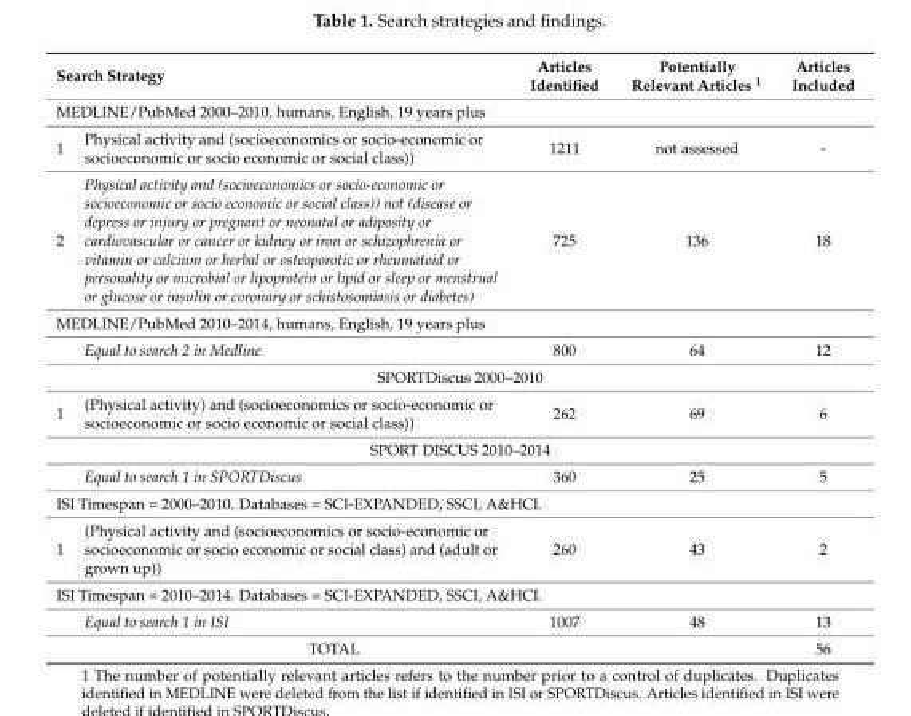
<table><thead><tr><td colspan="2">Search Strategy</td><td>Articles Identified</td><td>Potentially Relevant Articles <sup>1</sup></td><td>Articles Included</td></tr><tr><td colspan="5">MEDLINE/PubMed 2000–2010, humans, English, 19 years plus</td></tr><tr><td>1</td><td>Physical activity and (socioeconomics or socio-economic or socioeconomic or socio economic or social class))</td><td>1211</td><td>not assessed</td><td>-</td></tr></thead><tbody><tr><td>2</td><td>Physical activity and (socioeconomics or socio-economic or socioeconomic or socio economic or social class)) not (disease or depress or injury or pregnant or neonatal or adiposity or cardiovascular or cancer or kidney or iron or schizophrenia or vitamin or calcium or herbal or osteoporotic or rheumatoid or personality or microbial or lipoprotein or lipid or sleep or menstrual or glucose or insulin or coronary or schistosomiasis or diabetes)</td><td>725</td><td>136</td><td>18</td></tr><tr><td colspan="5">MEDLINE/PubMed 2010–2014, humans, English, 19 years plus</td></tr><tr><td></td><td>Equal to search 2 in Medline</td><td>800</td><td>64</td><td>12</td></tr><tr><td colspan="5">SPORTDiscus 2000–2010</td></tr><tr><td>1</td><td>(Physical activity) and (socioeconomics or socio-economic or socioeconomic or socio economic or social class))</td><td>262</td><td>69</td><td>6</td></tr><tr><td colspan="5">SPORT DISCUS 2010–2014</td></tr><tr><td></td><td>Equal to search 1 in SPORTDiscus</td><td>360</td><td>25</td><td>5</td></tr><tr><td colspan="5">ISI Timespan = 2000–2010. Databases = SCI-EXPANDED, SSCI, A&amp;HCI.</td></tr><tr><td>1</td><td>(Physical activity and (socioeconomics or socio-economic or socioeconomic or socio economic or social class) and (adult or grown up))</td><td>260</td><td>43</td><td>2</td></tr><tr><td colspan="5">ISI Timespan = 2010–2014. Databases = SCI-EXPANDED, SSCI, A&amp;HCI.</td></tr><tr><td></td><td>Equal to search 1 in ISI</td><td>1007</td><td>48</td><td>13</td></tr><tr><td colspan="3">TOTAL</td><td></td><td>56</td></tr></tbody></table>